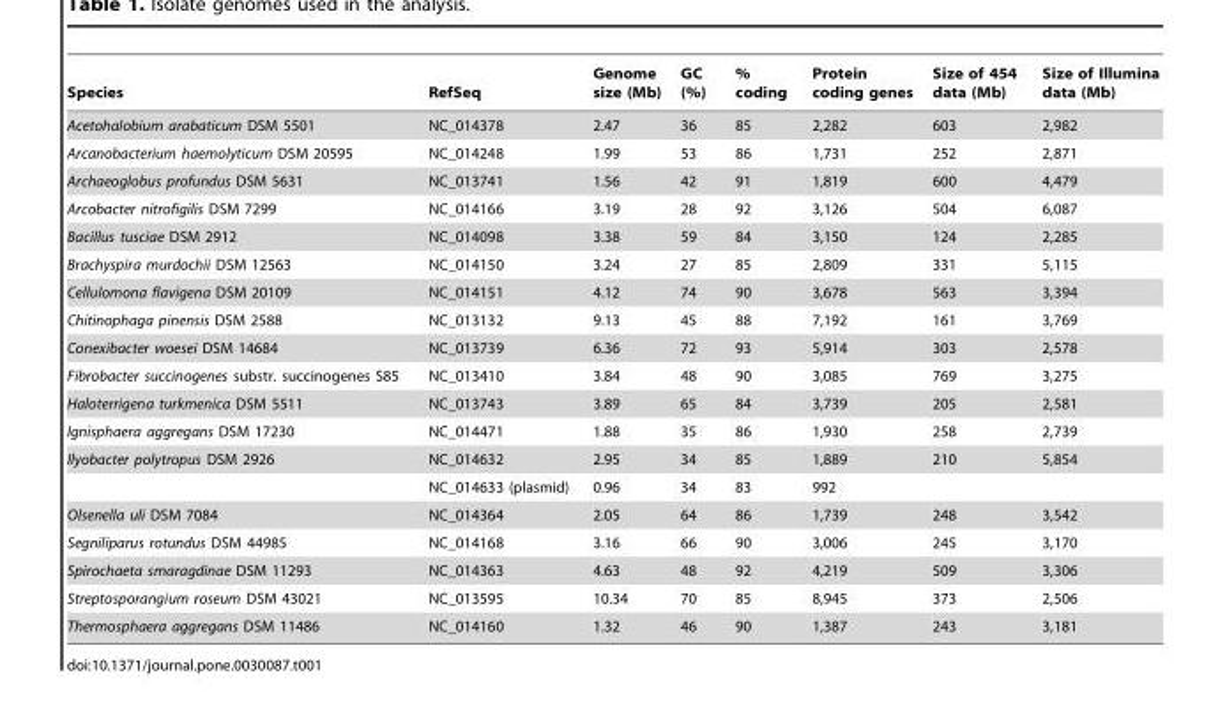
<table><thead><tr><td>Species</td><td>RefSeq</td><td>Genome size (Mb)</td><td>GC (%)</td><td>% coding</td><td>Protein coding genes</td><td>Size of 454 data (Mb)</td><td>Size of Illumina data (Mb)</td></tr></thead><tbody><tr><td>Acetohalobium arabaticum DSM 5501</td><td>NC_014378</td><td>2.47</td><td>36</td><td>85</td><td>2,282</td><td>603</td><td>2,982</td></tr><tr><td>Arcanobacterium haemolyticum DSM 20595</td><td>NC_014248</td><td>1.99</td><td>53</td><td>86</td><td>1,731</td><td>252</td><td>2,871</td></tr><tr><td>Archaeoglobus profundus DSM 5631</td><td>NC_013741</td><td>1.56</td><td>42</td><td>91</td><td>1,819</td><td>600</td><td>4,479</td></tr><tr><td>Arcobacter nitrofigilis DSM 7299</td><td>NC_014166</td><td>3.19</td><td>28</td><td>92</td><td>3,126</td><td>504</td><td>6,087</td></tr><tr><td>Bacillus tusciae DSM 2912</td><td>NC_014098</td><td>3.38</td><td>59</td><td>84</td><td>3,150</td><td>124</td><td>2,285</td></tr><tr><td>Brachyspira murdochii DSM 12563</td><td>NC_014150</td><td>3.24</td><td>27</td><td>85</td><td>2,809</td><td>331</td><td>5,115</td></tr><tr><td>Cellulomona flavigena DSM 20109</td><td>NC_014151</td><td>4.12</td><td>74</td><td>90</td><td>3,678</td><td>563</td><td>3,394</td></tr><tr><td>Chitinophaga pinensis DSM 2588</td><td>NC_013132</td><td>9.13</td><td>45</td><td>88</td><td>7,192</td><td>161</td><td>3,769</td></tr><tr><td>Conexibacter woesei DSM 14684</td><td>NC_013739</td><td>6.36</td><td>72</td><td>93</td><td>5,914</td><td>303</td><td>2,578</td></tr><tr><td>Fibrobacter succinogenes substr. succinogenes S85</td><td>NC_013410</td><td>3.84</td><td>48</td><td>90</td><td>3,085</td><td>769</td><td>3,275</td></tr><tr><td>Haloterrigena turkmenica DSM 5511</td><td>NC_013743</td><td>3.89</td><td>65</td><td>84</td><td>3,739</td><td>205</td><td>2,581</td></tr><tr><td>Ignisphaera aggregans DSM 17230</td><td>NC_014471</td><td>1.88</td><td>35</td><td>86</td><td>1,930</td><td>258</td><td>2,739</td></tr><tr><td rowspan="2">Ilyobacter polytropus DSM 2926</td><td>NC_014632</td><td>2.95</td><td>34</td><td>85</td><td>1,889</td><td>210</td><td>5,854</td></tr><tr><td>NC_014633 (plasmid)</td><td>0.96</td><td>34</td><td>83</td><td>992</td><td></td><td></td></tr><tr><td>Olsenella uli DSM 7084</td><td>NC_014364</td><td>2.05</td><td>64</td><td>86</td><td>1,739</td><td>248</td><td>3,542</td></tr><tr><td>Segniliparus rotundus DSM 44985</td><td>NC_014168</td><td>3.16</td><td>66</td><td>90</td><td>3,006</td><td>245</td><td>3,170</td></tr><tr><td>Spirochaeta smaragdinae DSM 11293</td><td>NC_014363</td><td>4.63</td><td>48</td><td>92</td><td>4,219</td><td>509</td><td>3,306</td></tr><tr><td>Streptosporangium roseum DSM 43021</td><td>NC_013595</td><td>10.34</td><td>70</td><td>85</td><td>8,945</td><td>373</td><td>2,506</td></tr><tr><td>Thermosphaera aggregans DSM 11486</td><td>NC_014160</td><td>1.32</td><td>46</td><td>90</td><td>1,387</td><td>243</td><td>3,181</td></tr></tbody></table>